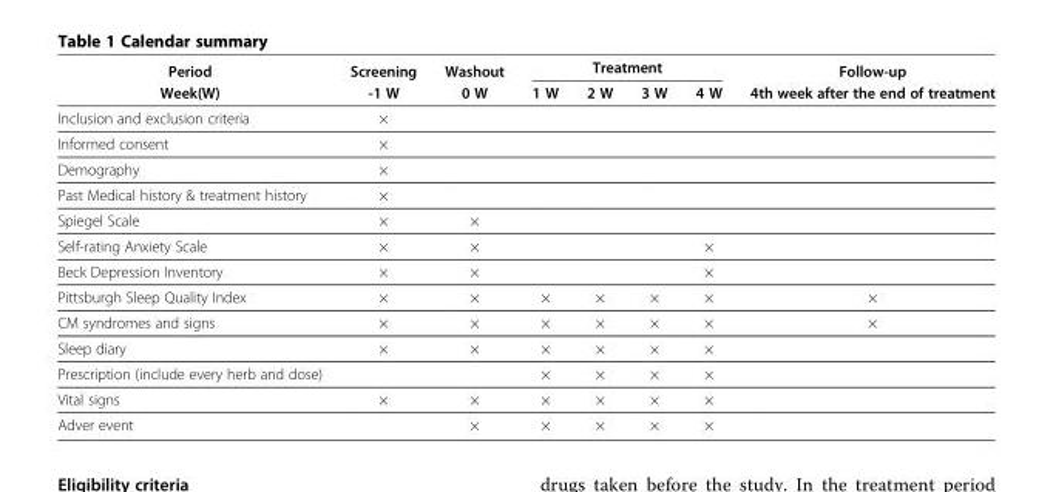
<table><thead><tr><td rowspan="2">Period Week(W)</td><td rowspan="2">Screening -1 W</td><td rowspan="2">Washout 0 W</td><td colspan="4">Treatment</td><td rowspan="2">Follow-up 4th week after the end of treatment</td></tr><tr><td>1 W</td><td>2 W</td><td>3 W</td><td>4 W</td></tr></thead><tbody><tr><td>Inclusion and exclusion criteria</td><td>×</td><td></td><td></td><td></td><td></td><td></td><td></td></tr><tr><td>Informed consent</td><td>×</td><td></td><td></td><td></td><td></td><td></td><td></td></tr><tr><td>Demography</td><td>×</td><td></td><td></td><td></td><td></td><td></td><td></td></tr><tr><td>Past Medical history &amp; treatment history</td><td>×</td><td></td><td></td><td></td><td></td><td></td><td></td></tr><tr><td>Spiegel Scale</td><td>×</td><td>×</td><td></td><td></td><td></td><td></td><td></td></tr><tr><td>Self-rating Anxiety Scale</td><td>×</td><td>×</td><td></td><td></td><td></td><td>×</td><td></td></tr><tr><td>Beck Depression Inventory</td><td>×</td><td>×</td><td></td><td></td><td></td><td>×</td><td></td></tr><tr><td>Pittsburgh Sleep Quality Index</td><td>×</td><td>×</td><td>×</td><td>×</td><td>×</td><td>×</td><td>×</td></tr><tr><td>CM syndromes and signs</td><td>×</td><td>×</td><td>×</td><td>×</td><td>×</td><td>×</td><td>×</td></tr><tr><td>Sleep diary</td><td>×</td><td>×</td><td>×</td><td>×</td><td>×</td><td>×</td><td></td></tr><tr><td>Prescription (include every herb and dose)</td><td></td><td></td><td>×</td><td>×</td><td>×</td><td>×</td><td></td></tr><tr><td>Vital signs</td><td>×</td><td>×</td><td>×</td><td>×</td><td>×</td><td>×</td><td></td></tr><tr><td>Adver event</td><td></td><td>×</td><td>×</td><td>×</td><td>×</td><td>×</td><td></td></tr></tbody></table>